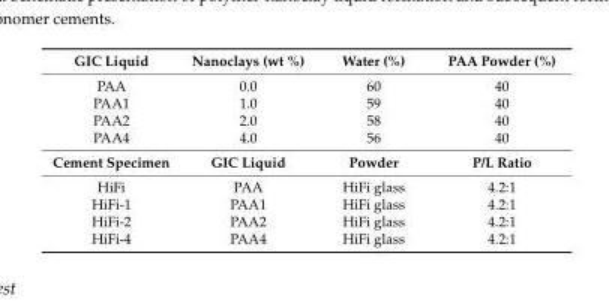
<table><tbody><tr><td>GIC Liquid</td><td>Nanoclays (wt %)</td><td>Water (%)</td><td>PAA Powder (%)</td></tr><tr><td>PAA</td><td>0.0</td><td>60</td><td>40</td></tr><tr><td>PAA1</td><td>1.0</td><td>59</td><td>40</td></tr><tr><td>PAA2</td><td>2.0</td><td>58</td><td>40</td></tr><tr><td>PAA4</td><td>4.0</td><td>56</td><td>40</td></tr><tr><td>Cement Specimen</td><td>GIC Liquid</td><td>Powder</td><td>P/L Ratio</td></tr><tr><td>HiFi</td><td>PAA</td><td>HiFi glass</td><td>4.2:1</td></tr><tr><td>HiFi-1</td><td>PAA1</td><td>HiFi glass</td><td>4.2:1</td></tr><tr><td>HiFi-2</td><td>PAA2</td><td>HiFi glass</td><td>4.2:1</td></tr><tr><td>HiFi-4</td><td>PAA4</td><td>HiFi glass</td><td>4.2:1</td></tr></tbody></table>